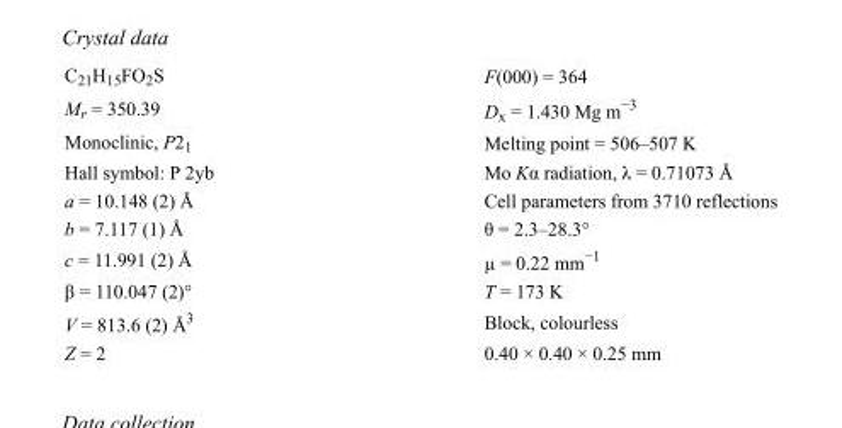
<table><tbody><tr><td>C<sub>21</sub>H<sub>15</sub>FO<sub>2</sub>S</td><td>F(000) = 364</td></tr><tr><td>M<sub>r</sub> = 350.39</td><td>D<sub>x</sub> = 1.430 Mg m<sup>−3</sup></td></tr><tr><td>Monoclinic, P2<sub>1</sub></td><td>Melting point = 506–507 K</td></tr><tr><td>Hall symbol: P 2yb</td><td>Mo Kα radiation, λ = 0.71073 Å</td></tr><tr><td>a = 10.148 (2) Å</td><td>Cell parameters from 3710 reflections</td></tr><tr><td>b = 7.117 (1) Å</td><td>θ = 2.3–28.3°</td></tr><tr><td>c = 11.991 (2) Å</td><td>µ = 0.22 mm<sup>−1</sup></td></tr><tr><td>β = 110.047 (2)°</td><td>T = 173 K</td></tr><tr><td>V = 813.6 (2) Å<sup>3</sup></td><td>Block, colourless</td></tr><tr><td>Z = 2</td><td>0.40 × 0.40 × 0.25 mm</td></tr></tbody></table>